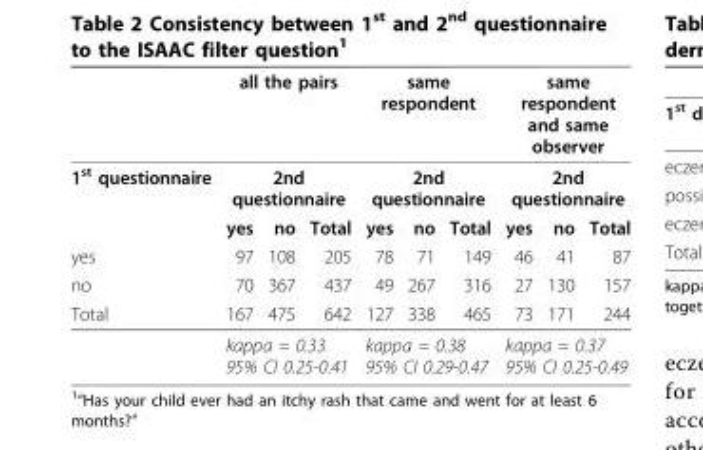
<table><thead><tr><td rowspan="3">1<sup>st</sup> questionnaire</td><td rowspan="2" colspan="3">all the pairs 2nd questionnaire</td><td rowspan="2" colspan="3">same respondent 2nd questionnaire</td><td rowspan="2" colspan="3">same respondent and same observer 2nd questionnaire</td></tr><tr></tr><tr><td>yes</td><td>no</td><td>Total</td><td>yes</td><td>no</td><td>Total</td><td>yes</td><td>no</td><td>Total</td></tr></thead><tbody><tr><td>yes</td><td>97</td><td>108</td><td>205</td><td>78</td><td>71</td><td>149</td><td>46</td><td>41</td><td>87</td></tr><tr><td>no</td><td>70</td><td>367</td><td>437</td><td>49</td><td>267</td><td>316</td><td>27</td><td>130</td><td>157</td></tr><tr><td rowspan="2">Total</td><td>167</td><td>475</td><td>642</td><td>127</td><td>338</td><td>465</td><td>73</td><td>171</td><td>244</td></tr><tr><td colspan="3">kappa = 0.33 95% CI 0.25-0.41</td><td colspan="3">kappa = 0.38 95% CI 0.29-0.47</td><td colspan="3">kappa = 0.37 95% CI 0.25-0.49</td></tr></tbody></table>